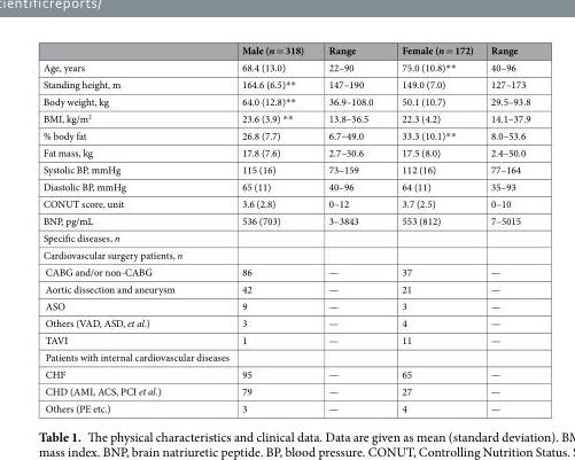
<table><thead><tr><td></td><td>Male (n = 318)</td><td>Range</td><td>Female (n = 172)</td><td>Range</td></tr></thead><tbody><tr><td>Age, years</td><td>68.4 (13.0)</td><td>22–90</td><td>75.0 (10.8)**</td><td>40–96</td></tr><tr><td>Standing height, m</td><td>164.6 (6.5)**</td><td>147–190</td><td>149.0 (7.0)</td><td>127–173</td></tr><tr><td>Body weight, kg</td><td>64.0 (12.8)**</td><td>36.9–108.0</td><td>50.1 (10.7)</td><td>29.5–93.8</td></tr><tr><td>BMI, kg/m<sup>2</sup></td><td>23.6 (3.9) **</td><td>13.8–36.5</td><td>22.3 (4.2)</td><td>14.1–37.9</td></tr><tr><td>% body fat</td><td>26.8 (7.7)</td><td>6.7–49.0</td><td>33.3 (10.1)**</td><td>8.0–53.6</td></tr><tr><td>Fat mass, kg</td><td>17.8 (7.6)</td><td>2.7–50.6</td><td>17.5 (8.0)</td><td>2.4–50.0</td></tr><tr><td>Systolic BP, mmHg</td><td>115 (16)</td><td>73–159</td><td>112 (16)</td><td>77–164</td></tr><tr><td>Diastolic BP, mmHg</td><td>65 (11)</td><td>40–96</td><td>64 (11)</td><td>35–93</td></tr><tr><td>CONUT score, unit</td><td>3.6 (2.8)</td><td>0–12</td><td>3.7 (2.5)</td><td>0–10</td></tr><tr><td>BNP, pg/mL</td><td>536 (703)</td><td>3–3843</td><td>553 (812)</td><td>7–5015</td></tr><tr><td colspan="5">Specific diseases, n</td></tr><tr><td colspan="5">Cardiovascular surgery patients, n</td></tr><tr><td>CABG and/or non-CABG</td><td>86</td><td>—</td><td>37</td><td>—</td></tr><tr><td>Aortic dissection and aneurysm</td><td>42</td><td>—</td><td>21</td><td>—</td></tr><tr><td>ASO</td><td>9</td><td>—</td><td>3</td><td>—</td></tr><tr><td>Others (VAD, ASD, et al.)</td><td>3</td><td>—</td><td>4</td><td>—</td></tr><tr><td>TAVI</td><td>1</td><td>—</td><td>11</td><td>—</td></tr><tr><td colspan="5">Patients with internal cardiovascular diseases</td></tr><tr><td>CHF</td><td>95</td><td>—</td><td>65</td><td>—</td></tr><tr><td>CHD (AMI, ACS, PCI et al.)</td><td>79</td><td>—</td><td>27</td><td>—</td></tr><tr><td>Others (PE etc.)</td><td>3</td><td>—</td><td>4</td><td>—</td></tr></tbody></table>